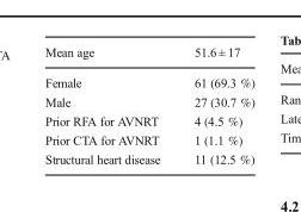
<table><thead><tr><td>Mean age</td><td>51.6 ± 17</td></tr></thead><tbody><tr><td>Female</td><td>61 (69.3 %)</td></tr><tr><td>Male</td><td>27 (30.7 %)</td></tr><tr><td>Prior RFA for AVNRT</td><td>4 (4.5 %)</td></tr><tr><td>Prior CTA for AVNRT</td><td>1 (1.1 %)</td></tr><tr><td>Structural heart disease</td><td>11 (12.5 %)</td></tr></tbody></table>